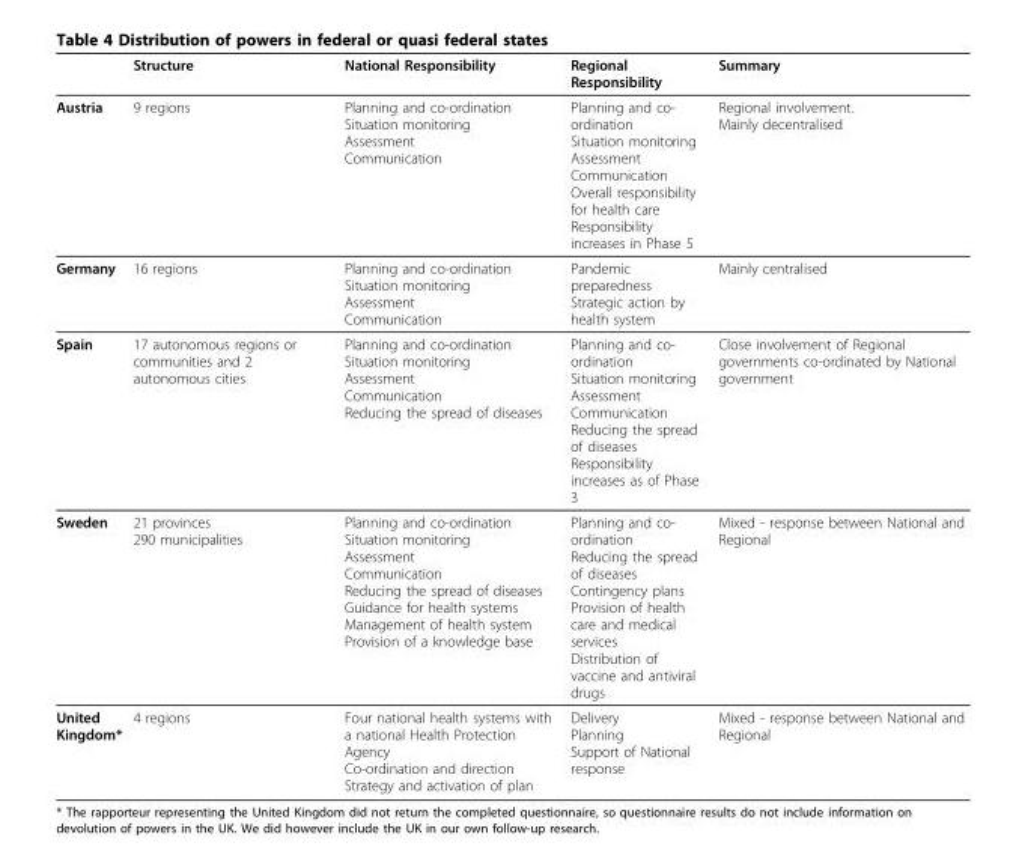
<table><thead><tr><td></td><td>Structure</td><td>National Responsibility</td><td>Regional Responsibility</td><td>Summary</td></tr></thead><tbody><tr><td>Austria</td><td>9 regions</td><td>Planning and co-ordination Situation monitoring Assessment Communication</td><td>Planning and co- ordination Situation monitoring Assessment Communication Overall responsibility for health care Responsibility increases in Phase 5</td><td>Regional involvement. Mainly decentralised</td></tr><tr><td>Germany</td><td>16 regions</td><td>Planning and co-ordination Situation monitoring Assessment Communication</td><td>Pandemic preparedness Strategic action by health system</td><td>Mainly centralised</td></tr><tr><td>Spain</td><td>17 autonomous regions or communities and 2 autonomous cities</td><td>Planning and co-ordination Situation monitoring Assessment Communication Reducing the spread of diseases</td><td>Planning and co- ordination Situation monitoring Assessment Communication Reducing the spread of diseases Responsibility increases as of Phase 3</td><td>Close involvement of Regional governments co-ordinated by National government</td></tr><tr><td>Sweden</td><td>21 provinces 290 municipalities</td><td>Planning and co-ordination Situation monitoring Assessment Communication Reducing the spread of diseases Guidance for health systems Management of health system Provision of a knowledge base</td><td>Planning and co- ordination Reducing the spread of diseases Contingency plans Provision of health care and medical services Distribution of vaccine and antiviral drugs</td><td>Mixed - response between National and Regional</td></tr><tr><td>United Kingdom*</td><td>4 regions</td><td>Four national health systems with a national Health Protection Agency Co-ordination and direction Strategy and activation of plan</td><td>Delivery Planning Support of National response</td><td>Mixed - response between National and Regional</td></tr></tbody></table>